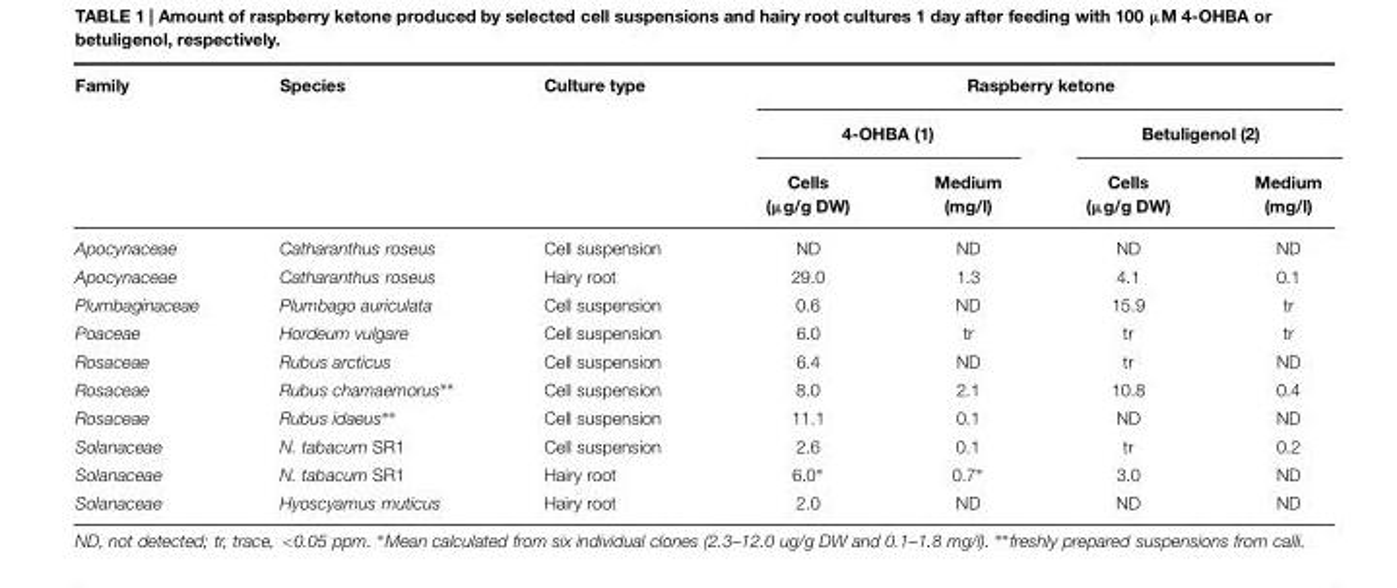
<table><thead><tr><td rowspan="3">Family</td><td rowspan="3">Species</td><td rowspan="3">Culture type</td><td colspan="4">Raspberry ketone</td></tr><tr><td colspan="2">4-OHBA (1)</td><td colspan="2">Betuligenol (2)</td></tr><tr><td>Cells (µg/g DW)</td><td>Medium (mg/l)</td><td>Cells (µg/g DW)</td><td>Medium (mg/l)</td></tr></thead><tbody><tr><td>Apocynaceae</td><td>Catharanthus roseus</td><td>Cell suspension</td><td>ND</td><td>ND</td><td>ND</td><td>ND</td></tr><tr><td>Apocynaceae</td><td>Catharanthus roseus</td><td>Hairy root</td><td>29.0</td><td>1.3</td><td>4.1</td><td>0.1</td></tr><tr><td>Plumbaginaceae</td><td>Plumbago auriculata</td><td>Cell suspension</td><td>0.6</td><td>ND</td><td>15.9</td><td>tr</td></tr><tr><td>Poaceae</td><td>Hordeum vulgare</td><td>Cell suspension</td><td>6.0</td><td>tr</td><td>tr</td><td>tr</td></tr><tr><td>Rosaceae</td><td>Rubus arcticus</td><td>Cell suspension</td><td>6.4</td><td>ND</td><td>tr</td><td>ND</td></tr><tr><td>Rosaceae</td><td>Rubus chamaemorus∗∗</td><td>Cell suspension</td><td>8.0</td><td>2.1</td><td>10.8</td><td>0.4</td></tr><tr><td>Rosaceae</td><td>Rubus idaeus∗∗</td><td>Cell suspension</td><td>11.1</td><td>0.1</td><td>ND</td><td>ND</td></tr><tr><td>Solanaceae</td><td>N. tabacum SR1</td><td>Cell suspension</td><td>2.6</td><td>0.1</td><td>tr</td><td>0.2</td></tr><tr><td>Solanaceae</td><td>N. tabacum SR1</td><td>Hairy root</td><td>6.0∗</td><td>0.7∗</td><td>3.0</td><td>ND</td></tr><tr><td>Solanaceae</td><td>Hyoscyamus muticus</td><td>Hairy root</td><td>2.0</td><td>ND</td><td>ND</td><td>ND</td></tr></tbody></table>